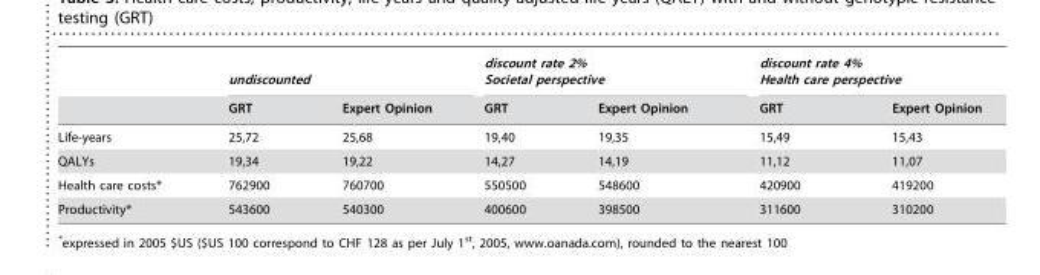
<table><thead><tr><td rowspan="2"></td><td colspan="2">undiscounted</td><td colspan="2">discount rate 2% Societal perspective</td><td colspan="2">discount rate 4% Health care perspective</td></tr><tr><td>GRT</td><td>Expert Opinion</td><td>GRT</td><td>Expert Opinion</td><td>GRT</td><td>Expert Opinion</td></tr></thead><tbody><tr><td>Life-years</td><td>25,72</td><td>25,68</td><td>19,40</td><td>19,35</td><td>15,49</td><td>15,43</td></tr><tr><td>QALYs</td><td>19,34</td><td>19,22</td><td>14,27</td><td>14,19</td><td>11,12</td><td>11,07</td></tr><tr><td>Health care costs*</td><td>762900</td><td>760700</td><td>550500</td><td>548600</td><td>420900</td><td>419200</td></tr><tr><td>Productivity*</td><td>543600</td><td>540300</td><td>400600</td><td>398500</td><td>311600</td><td>310200</td></tr></tbody></table>